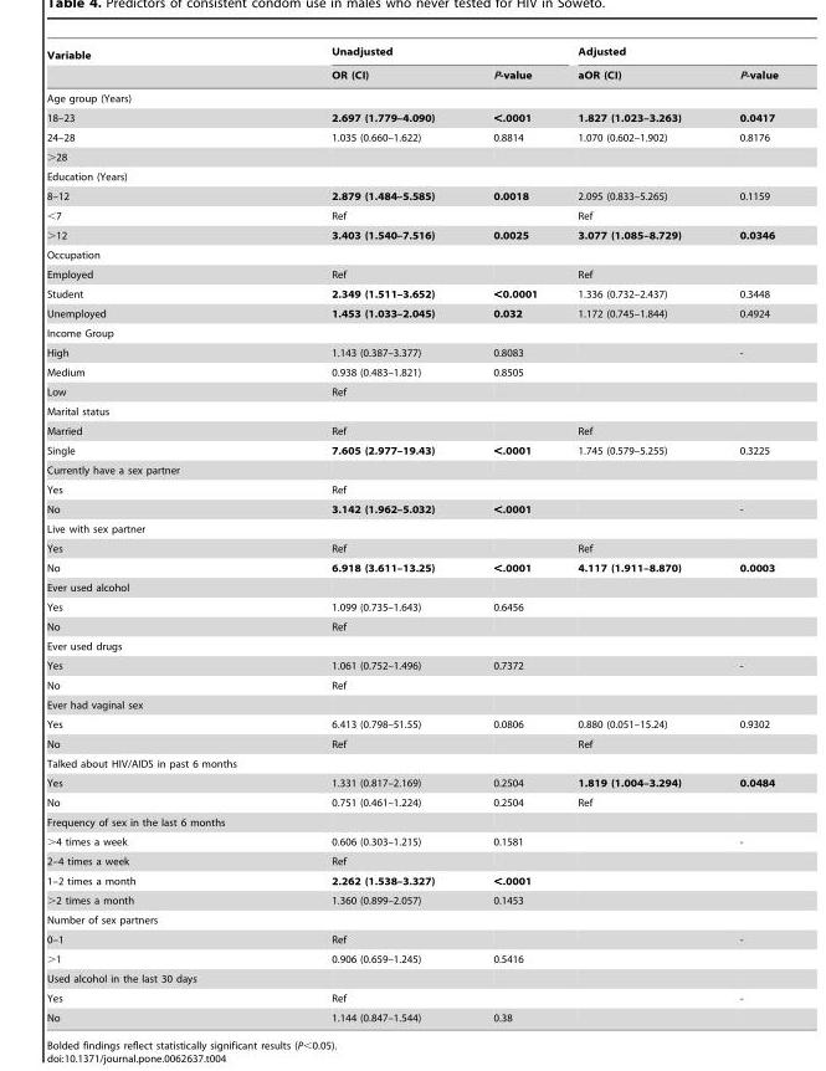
<table><thead><tr><td rowspan="2">Variable</td><td colspan="2">Unadjusted</td><td colspan="2">Adjusted</td></tr><tr><td>OR (CI)</td><td>P-value</td><td>aOR (CI)</td><td>P-value</td></tr></thead><tbody><tr><td colspan="5">Age group (Years)</td></tr><tr><td>18–23</td><td>2.697 (1.779–4.090)</td><td>&lt;.0001</td><td>1.827 (1.023–3.263)</td><td>0.0417</td></tr><tr><td>24–28</td><td>1.035 (0.660–1.622)</td><td>0.8814</td><td>1.070 (0.602–1.902)</td><td>0.8176</td></tr><tr><td colspan="5">&gt;28</td></tr><tr><td colspan="5">Education (Years)</td></tr><tr><td>8–12</td><td>2.879 (1.484–5.585)</td><td>0.0018</td><td>2.095 (0.833–5.265)</td><td>0.1159</td></tr><tr><td>&lt;7</td><td>Ref</td><td></td><td>Ref</td><td></td></tr><tr><td>&gt;12</td><td>3.403 (1.540–7.516)</td><td>0.0025</td><td>3.077 (1.085–8.729)</td><td>0.0346</td></tr><tr><td colspan="5">Occupation</td></tr><tr><td>Employed</td><td>Ref</td><td></td><td>Ref</td><td></td></tr><tr><td>Student</td><td>2.349 (1.511–3.652)</td><td>&lt;0.0001</td><td>1.336 (0.732–2.437)</td><td>0.3448</td></tr><tr><td>Unemployed</td><td>1.453 (1.033–2.045)</td><td>0.032</td><td>1.172 (0.745–1.844)</td><td>0.4924</td></tr><tr><td colspan="5">Income Group</td></tr><tr><td>High</td><td>1.143 (0.387–3.377)</td><td>0.8083</td><td></td><td>-</td></tr><tr><td>Medium</td><td>0.938 (0.483–1.821)</td><td>0.8505</td><td></td><td></td></tr><tr><td>Low</td><td>Ref</td><td></td><td></td><td></td></tr><tr><td colspan="5">Marital status</td></tr><tr><td>Married</td><td>Ref</td><td></td><td>Ref</td><td></td></tr><tr><td>Single</td><td>7.605 (2.977–19.43)</td><td>&lt;.0001</td><td>1.745 (0.579–5.255)</td><td>0.3225</td></tr><tr><td colspan="5">Currently have a sex partner</td></tr><tr><td>Yes</td><td>Ref</td><td></td><td></td><td></td></tr><tr><td>No</td><td>3.142 (1.962–5.032)</td><td>&lt;.0001</td><td></td><td>-</td></tr><tr><td colspan="5">Live with sex partner</td></tr><tr><td>Yes</td><td>Ref</td><td></td><td>Ref</td><td></td></tr><tr><td>No</td><td>6.918 (3.611–13.25)</td><td>&lt;.0001</td><td>4.117 (1.911–8.870)</td><td>0.0003</td></tr><tr><td colspan="5">Ever used alcohol</td></tr><tr><td>Yes</td><td>1.099 (0.735–1.643)</td><td>0.6456</td><td></td><td></td></tr><tr><td>No</td><td>Ref</td><td></td><td></td><td></td></tr><tr><td colspan="5">Ever used drugs</td></tr><tr><td>Yes</td><td>1.061 (0.752–1.496)</td><td>0.7372</td><td></td><td>-</td></tr><tr><td>No</td><td>Ref</td><td></td><td></td><td></td></tr><tr><td colspan="5">Ever had vaginal sex</td></tr><tr><td>Yes</td><td>6.413 (0.798–51.55)</td><td>0.0806</td><td>0.880 (0.051–15.24)</td><td>0.9302</td></tr><tr><td>No</td><td>Ref</td><td></td><td>Ref</td><td></td></tr><tr><td colspan="5">Talked about HIV/AIDS in past 6 months</td></tr><tr><td>Yes</td><td>1.331 (0.817–2.169)</td><td>0.2504</td><td>1.819 (1.004–3.294)</td><td>0.0484</td></tr><tr><td>No</td><td>0.751 (0.461–1.224)</td><td>0.2504</td><td>Ref</td><td></td></tr><tr><td colspan="5">Frequency of sex in the last 6 months</td></tr><tr><td>&gt;4 times a week</td><td>0.606 (0.303–1.215)</td><td>0.1581</td><td></td><td>-</td></tr><tr><td>2–4 times a week</td><td>Ref</td><td></td><td></td><td></td></tr><tr><td>1–2 times a month</td><td>2.262 (1.538–3.327)</td><td>&lt;.0001</td><td></td><td></td></tr><tr><td>&gt;2 times a month</td><td>1.360 (0.899–2.057)</td><td>0.1453</td><td></td><td></td></tr><tr><td colspan="5">Number of sex partners</td></tr><tr><td>0–1</td><td>Ref</td><td></td><td></td><td>-</td></tr><tr><td>&gt;1</td><td>0.906 (0.659–1.245)</td><td>0.5416</td><td></td><td></td></tr><tr><td colspan="5">Used alcohol in the last 30 days</td></tr><tr><td>Yes</td><td>Ref</td><td></td><td></td><td>-</td></tr><tr><td>No</td><td>1.144 (0.847–1.544)</td><td>0.38</td><td></td><td></td></tr></tbody></table>